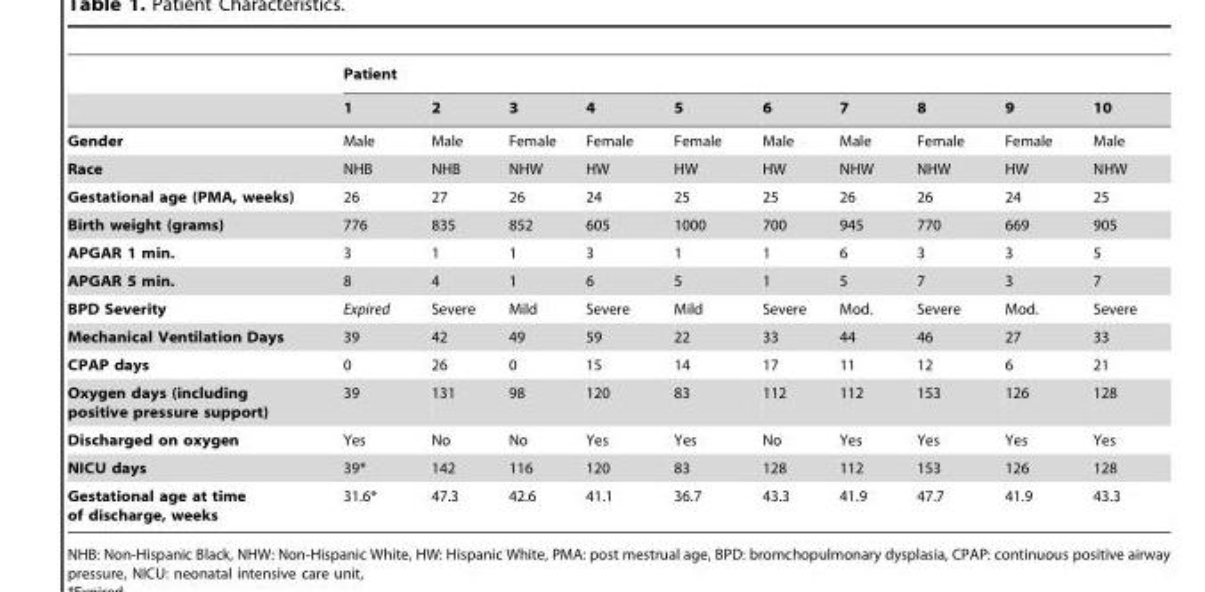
<table><thead><tr><td rowspan="2"></td><td colspan="10">Patient</td></tr><tr><td>1</td><td>2</td><td>3</td><td>4</td><td>5</td><td>6</td><td>7</td><td>8</td><td>9</td><td>10</td></tr></thead><tbody><tr><td>Gender</td><td>Male</td><td>Male</td><td>Female</td><td>Female</td><td>Female</td><td>Male</td><td>Male</td><td>Female</td><td>Female</td><td>Male</td></tr><tr><td>Race</td><td>NHB</td><td>NHB</td><td>NHW</td><td>HW</td><td>HW</td><td>HW</td><td>NHW</td><td>NHW</td><td>HW</td><td>NHW</td></tr><tr><td>Gestational age (PMA, weeks)</td><td>26</td><td>27</td><td>26</td><td>24</td><td>25</td><td>25</td><td>26</td><td>26</td><td>24</td><td>25</td></tr><tr><td>Birth weight (grams)</td><td>776</td><td>835</td><td>852</td><td>605</td><td>1000</td><td>700</td><td>945</td><td>770</td><td>669</td><td>905</td></tr><tr><td>APGAR 1 min.</td><td>3</td><td>1</td><td>1</td><td>3</td><td>1</td><td>1</td><td>6</td><td>3</td><td>3</td><td>5</td></tr><tr><td>APGAR 5 min.</td><td>8</td><td>4</td><td>1</td><td>6</td><td>5</td><td>1</td><td>5</td><td>7</td><td>3</td><td>7</td></tr><tr><td>BPD Severity</td><td>Expired</td><td>Severe</td><td>Mild</td><td>Severe</td><td>Mild</td><td>Severe</td><td>Mod.</td><td>Severe</td><td>Mod.</td><td>Severe</td></tr><tr><td>Mechanical Ventilation Days</td><td>39</td><td>42</td><td>49</td><td>59</td><td>22</td><td>33</td><td>44</td><td>46</td><td>27</td><td>33</td></tr><tr><td>CPAP days</td><td>0</td><td>26</td><td>0</td><td>15</td><td>14</td><td>17</td><td>11</td><td>12</td><td>6</td><td>21</td></tr><tr><td>Oxygen days (including positive pressure support)</td><td>39</td><td>131</td><td>98</td><td>120</td><td>83</td><td>112</td><td>112</td><td>153</td><td>126</td><td>128</td></tr><tr><td>Discharged on oxygen</td><td>Yes</td><td>No</td><td>No</td><td>Yes</td><td>Yes</td><td>No</td><td>Yes</td><td>Yes</td><td>Yes</td><td>Yes</td></tr><tr><td>NICU days</td><td>39*</td><td>142</td><td>116</td><td>120</td><td>83</td><td>128</td><td>112</td><td>153</td><td>126</td><td>128</td></tr><tr><td>Gestational age at time of discharge, weeks</td><td>31.6*</td><td>47.3</td><td>42.6</td><td>41.1</td><td>36.7</td><td>43.3</td><td>41.9</td><td>47.7</td><td>41.9</td><td>43.3</td></tr></tbody></table>